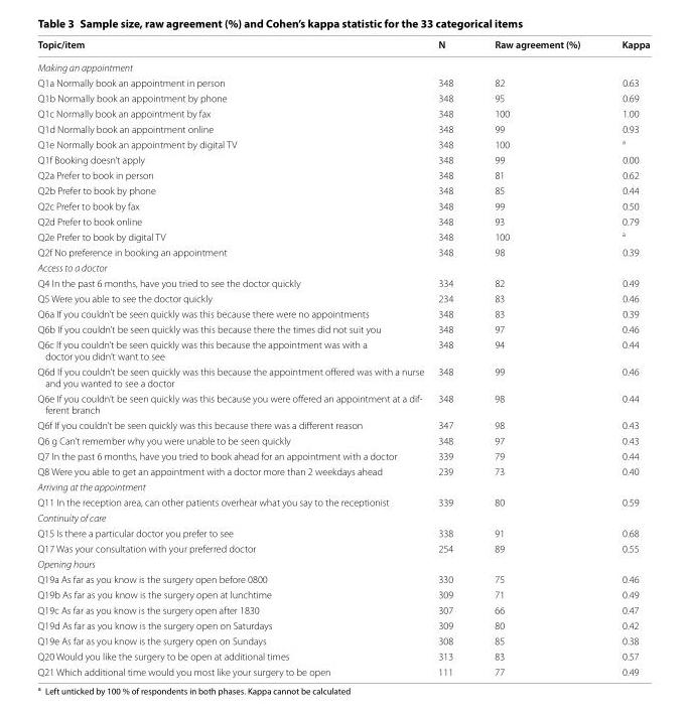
<table><thead><tr><td>Topic/item</td><td>N</td><td>Raw agreement (%)</td><td>Kappa</td></tr></thead><tbody><tr><td colspan="4">Making an appointment</td></tr><tr><td>Q1a Normally book an appointment in person</td><td>348</td><td>82</td><td>0.63</td></tr><tr><td>Q1b Normally book an appointment by phone</td><td>348</td><td>95</td><td>0.69</td></tr><tr><td>Q1c Normally book an appointment by fax</td><td>348</td><td>100</td><td>1.00</td></tr><tr><td>Q1d Normally book an appointment online</td><td>348</td><td>99</td><td>0.93</td></tr><tr><td>Q1e Normally book an appointment by digital TV</td><td>348</td><td>100</td><td><sup>a</sup></td></tr><tr><td>Q1f Booking doesn’t apply</td><td>348</td><td>99</td><td>0.00</td></tr><tr><td>Q2a Prefer to book in person</td><td>348</td><td>81</td><td>0.62</td></tr><tr><td>Q2b Prefer to book by phone</td><td>348</td><td>85</td><td>0.44</td></tr><tr><td>Q2c Prefer to book by fax</td><td>348</td><td>99</td><td>0.50</td></tr><tr><td>Q2d Prefer to book online</td><td>348</td><td>93</td><td>0.79</td></tr><tr><td>Q2e Prefer to book by digital TV</td><td>348</td><td>100</td><td><sup>a</sup></td></tr><tr><td>Q2f No preference in booking an appointment</td><td>348</td><td>98</td><td>0.39</td></tr><tr><td colspan="4">Access to a doctor</td></tr><tr><td>Q4 In the past 6 months, have you tried to see the doctor quickly</td><td>334</td><td>82</td><td>0.49</td></tr><tr><td>Q5 Were you able to see the doctor quickly</td><td>234</td><td>83</td><td>0.46</td></tr><tr><td>Q6a If you couldn’t be seen quickly was this because there were no appointments</td><td>348</td><td>83</td><td>0.39</td></tr><tr><td>Q6b If you couldn’t be seen quickly was this because there the times did not suit you</td><td>348</td><td>97</td><td>0.46</td></tr><tr><td>Q6c If you couldn’t be seen quickly was this because the appointment was with a doctor you didn’t want to see</td><td>348</td><td>94</td><td>0.44</td></tr><tr><td>Q6d If you couldn’t be seen quickly was this because the appointment offered was with a nurse and you wanted to see a doctor</td><td>348</td><td>99</td><td>0.46</td></tr><tr><td>Q6e If you couldn’t be seen quickly was this because you were offered an appointment at a dif- ferent branch</td><td>348</td><td>98</td><td>0.44</td></tr><tr><td>Q6f If you couldn’t be seen quickly was this because there was a different reason</td><td>347</td><td>98</td><td>0.43</td></tr><tr><td>Q6 g Can’t remember why you were unable to be seen quickly</td><td>348</td><td>97</td><td>0.43</td></tr><tr><td>Q7 In the past 6 months, have you tried to book ahead for an appointment with a doctor</td><td>339</td><td>79</td><td>0.44</td></tr><tr><td>Q8 Were you able to get an appointment with a doctor more than 2 weekdays ahead</td><td>239</td><td>73</td><td>0.40</td></tr><tr><td colspan="4">Arriving at the appointment</td></tr><tr><td>Q11 In the reception area, can other patients overhear what you say to the receptionist</td><td>339</td><td>80</td><td>0.59</td></tr><tr><td colspan="4">Continuity of care</td></tr><tr><td>Q15 Is there a particular doctor you prefer to see</td><td>338</td><td>91</td><td>0.68</td></tr><tr><td>Q17 Was your consultation with your preferred doctor</td><td>254</td><td>89</td><td>0.55</td></tr><tr><td colspan="4">Opening hours</td></tr><tr><td>Q19a As far as you know is the surgery open before 0800</td><td>330</td><td>75</td><td>0.46</td></tr><tr><td>Q19b As far as you know is the surgery open at lunchtime</td><td>309</td><td>71</td><td>0.49</td></tr><tr><td>Q19c As far as you know is the surgery open after 1830</td><td>307</td><td>66</td><td>0.47</td></tr><tr><td>Q19d As far as you know is the surgery open on Saturdays</td><td>309</td><td>80</td><td>0.42</td></tr><tr><td>Q19e As far as you know is the surgery open on Sundays</td><td>308</td><td>85</td><td>0.38</td></tr><tr><td>Q20 Would you like the surgery to be open at additional times</td><td>313</td><td>83</td><td>0.57</td></tr><tr><td>Q21 Which additional time would you most like your surgery to be open</td><td>111</td><td>77</td><td>0.49</td></tr></tbody></table>